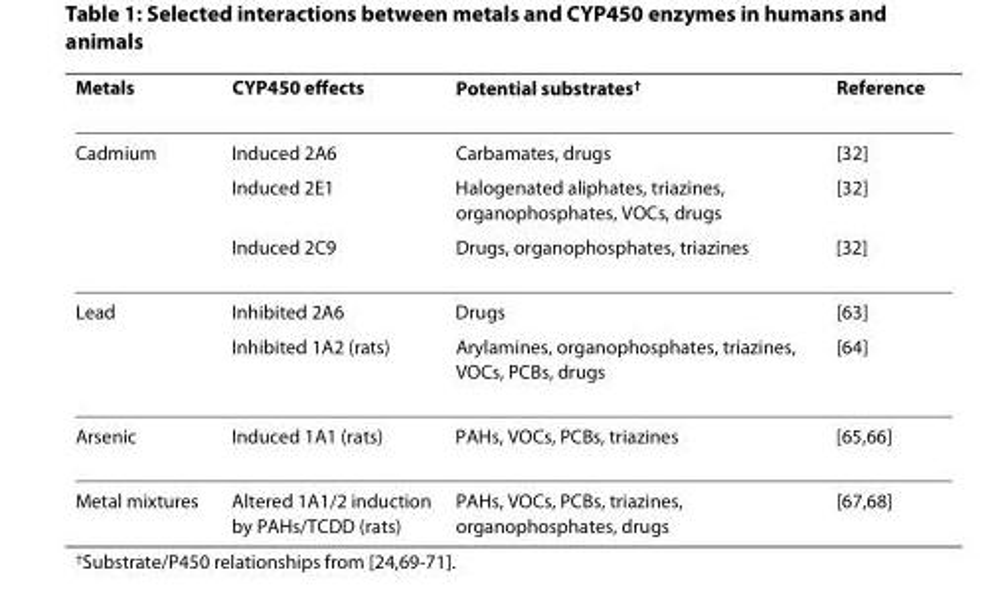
<table><thead><tr><td>Metals</td><td>CYP450 effects</td><td>Potential substrates<sup>†</sup></td><td>Reference</td></tr></thead><tbody><tr><td rowspan="3">Cadmium</td><td>Induced 2A6</td><td>Carbamates, drugs</td><td>[32]</td></tr><tr><td>Induced 2E1</td><td>Halogenated aliphates, triazines, organophosphates, VOCs, drugs</td><td>[32]</td></tr><tr><td>Induced 2C9</td><td>Drugs, organophosphates, triazines</td><td>[32]</td></tr><tr><td rowspan="2">Lead</td><td>Inhibited 2A6</td><td>Drugs</td><td>[63]</td></tr><tr><td>Inhibited 1A2 (rats)</td><td>Arylamines, organophosphates, triazines, VOCs, PCBs, drugs</td><td>[64]</td></tr><tr><td>Arsenic</td><td>Induced 1A1 (rats)</td><td>PAHs, VOCs, PCBs, triazines</td><td>[65,66]</td></tr><tr><td>Metal mixtures</td><td>Altered 1A1/2 induction by PAHs/TCDD (rats)</td><td>PAHs, VOCs, PCBs, triazines, organophosphates, drugs</td><td>[67,68]</td></tr></tbody></table>